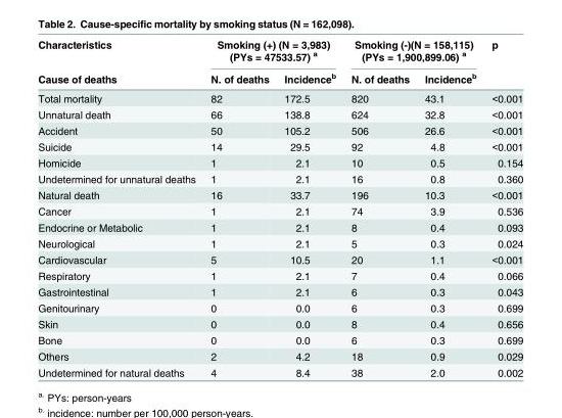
<table><thead><tr><td rowspan="2">Characteristics Cause of deaths</td><td colspan="2">Smoking (+) (N = 3,983) (PYs = 47533.57) <sup>a</sup></td><td colspan="2">Smoking (-)(N = 158,115) (PYs = 1,900,899.06) <sup>a</sup></td><td rowspan="2">p</td></tr><tr><td>N. of deaths</td><td>Incidence<sup>b</sup></td><td>N. of deaths</td><td>Incidence<sup>b</sup></td></tr></thead><tbody><tr><td>Total mortality</td><td>82</td><td>172.5</td><td>820</td><td>43.1</td><td>&lt;0.001</td></tr><tr><td>Unnatural death</td><td>66</td><td>138.8</td><td>624</td><td>32.8</td><td>&lt;0.001</td></tr><tr><td>Accident</td><td>50</td><td>105.2</td><td>506</td><td>26.6</td><td>&lt;0.001</td></tr><tr><td>Suicide</td><td>14</td><td>29.5</td><td>92</td><td>4.8</td><td>&lt;0.001</td></tr><tr><td>Homicide</td><td>1</td><td>2.1</td><td>10</td><td>0.5</td><td>0.154</td></tr><tr><td>Undetermined for unnatural deaths</td><td>1</td><td>2.1</td><td>16</td><td>0.8</td><td>0.360</td></tr><tr><td>Natural death</td><td>16</td><td>33.7</td><td>196</td><td>10.3</td><td>&lt;0.001</td></tr><tr><td>Cancer</td><td>1</td><td>2.1</td><td>74</td><td>3.9</td><td>0.536</td></tr><tr><td>Endocrine or Metabolic</td><td>1</td><td>2.1</td><td>8</td><td>0.4</td><td>0.093</td></tr><tr><td>Neurological</td><td>1</td><td>2.1</td><td>5</td><td>0.3</td><td>0.024</td></tr><tr><td>Cardiovascular</td><td>5</td><td>10.5</td><td>20</td><td>1.1</td><td>&lt;0.001</td></tr><tr><td>Respiratory</td><td>1</td><td>2.1</td><td>7</td><td>0.4</td><td>0.066</td></tr><tr><td>Gastrointestinal</td><td>1</td><td>2.1</td><td>6</td><td>0.3</td><td>0.043</td></tr><tr><td>Genitourinary</td><td>0</td><td>0.0</td><td>6</td><td>0.3</td><td>0.699</td></tr><tr><td>Skin</td><td>0</td><td>0.0</td><td>8</td><td>0.4</td><td>0.656</td></tr><tr><td>Bone</td><td>0</td><td>0.0</td><td>6</td><td>0.3</td><td>0.699</td></tr><tr><td>Others</td><td>2</td><td>4.2</td><td>18</td><td>0.9</td><td>0.029</td></tr><tr><td>Undetermined for natural deaths</td><td>4</td><td>8.4</td><td>38</td><td>2.0</td><td>0.002</td></tr></tbody></table>